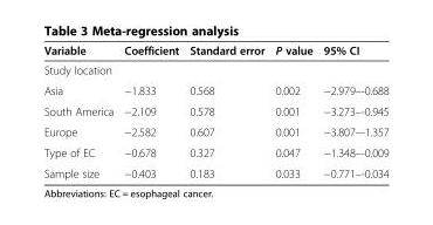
<table><thead><tr><td>Variable</td><td>Coefficient</td><td>Standard error</td><td>P value</td><td>95% CI</td></tr></thead><tbody><tr><td colspan="5">Study location</td></tr><tr><td>Asia</td><td>−1.833</td><td>0.568</td><td>0.002</td><td>−2.979–-0.688</td></tr><tr><td>South America</td><td>−2.109</td><td>0.578</td><td>0.001</td><td>−3.273–-0.945</td></tr><tr><td>Europe</td><td>−2.582</td><td>0.607</td><td>0.001</td><td>−3.807–-1.357</td></tr><tr><td>Type of EC</td><td>−0.678</td><td>0.327</td><td>0.047</td><td>−1.348–-0.009</td></tr><tr><td>Sample size</td><td>−0.403</td><td>0.183</td><td>0.033</td><td>−0.771–-0.034</td></tr></tbody></table>